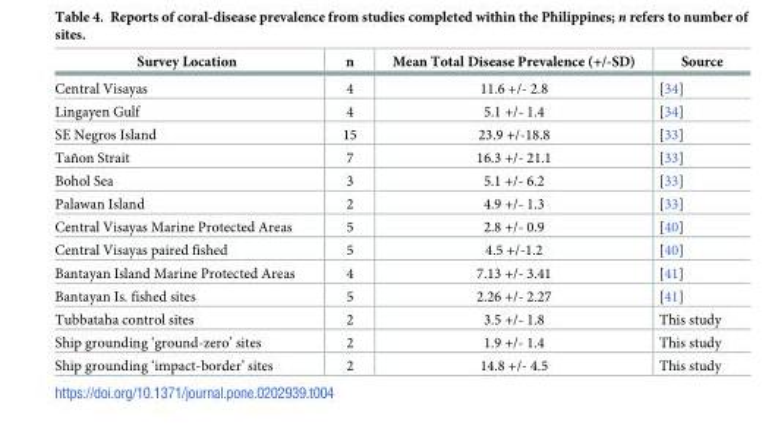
<table><thead><tr><td>Survey Location</td><td>n</td><td>Mean Total Disease Prevalence (+/-SD)</td><td>Source</td></tr></thead><tbody><tr><td>Central Visayas</td><td>4</td><td>11.6 +/- 2.8</td><td>[34]</td></tr><tr><td>Lingayen Gulf</td><td>4</td><td>5.1 +/- 1.4</td><td>[34]</td></tr><tr><td>SE Negros Island</td><td>15</td><td>23.9 +/-18.8</td><td>[33]</td></tr><tr><td>Tañon Strait</td><td>7</td><td>16.3 +/- 21.1</td><td>[33]</td></tr><tr><td>Bohol Sea</td><td>3</td><td>5.1 +/- 6.2</td><td>[33]</td></tr><tr><td>Palawan Island</td><td>2</td><td>4.9 +/- 1.3</td><td>[33]</td></tr><tr><td>Central Visayas Marine Protected Areas</td><td>5</td><td>2.8 +/- 0.9</td><td>[40]</td></tr><tr><td>Central Visayas paired fished</td><td>5</td><td>4.5 +/-1.2</td><td>[40]</td></tr><tr><td>Bantayan Island Marine Protected Areas</td><td>4</td><td>7.13 +/- 3.41</td><td>[41]</td></tr><tr><td>Bantayan Is. fished sites</td><td>5</td><td>2.26 +/- 2.27</td><td>[41]</td></tr><tr><td>Tubbataha control sites</td><td>2</td><td>3.5 +/- 1.8</td><td>This study</td></tr><tr><td>Ship grounding ‘ground-zero’ sites</td><td>2</td><td>1.9 +/- 1.4</td><td>This study</td></tr><tr><td>Ship grounding ‘impact-border’ sites</td><td>2</td><td>14.8 +/- 4.5</td><td>This study</td></tr></tbody></table>